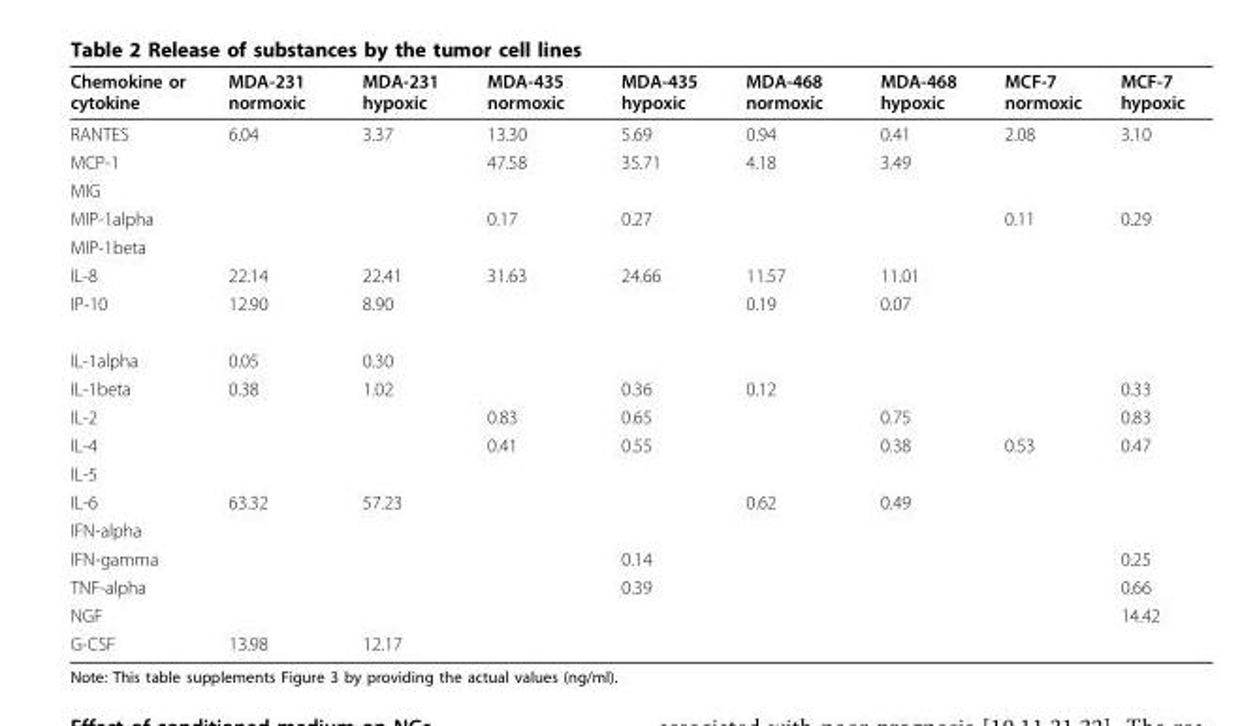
<table><thead><tr><td>Chemokine or cytokine</td><td>MDA-231 normoxic</td><td>MDA-231 hypoxic</td><td>MDA-435 normoxic</td><td>MDA-435 hypoxic</td><td>MDA-468 normoxic</td><td>MDA-468 hypoxic</td><td>MCF-7 normoxic</td><td>MCF-7 hypoxic</td></tr></thead><tbody><tr><td>RANTES</td><td>6.04</td><td>3.37</td><td>13.30</td><td>5.69</td><td>0.94</td><td>0.41</td><td>2.08</td><td>3.10</td></tr><tr><td>MCP-1</td><td></td><td></td><td>47.58</td><td>35.71</td><td>4.18</td><td>3.49</td><td></td><td></td></tr><tr><td colspan="9">MIG</td></tr><tr><td>MIP-1alpha</td><td></td><td></td><td>0.17</td><td>0.27</td><td></td><td></td><td>0.11</td><td>0.29</td></tr><tr><td colspan="9">MIP-1beta</td></tr><tr><td>IL-8</td><td>22.14</td><td>22.41</td><td>31.63</td><td>24.66</td><td>11.57</td><td>11.01</td><td></td><td></td></tr><tr><td>IP-10</td><td>12.90</td><td>8.90</td><td></td><td></td><td>0.19</td><td>0.07</td><td></td><td></td></tr><tr><td>IL-1alpha</td><td>0.05</td><td>0.30</td><td></td><td></td><td></td><td></td><td></td><td></td></tr><tr><td>IL-1beta</td><td>0.38</td><td>1.02</td><td></td><td>0.36</td><td>0.12</td><td></td><td></td><td>0.33</td></tr><tr><td>IL-2</td><td></td><td></td><td>0.83</td><td>0.65</td><td></td><td>0.75</td><td></td><td>0.83</td></tr><tr><td>IL-4</td><td></td><td></td><td>0.41</td><td>0.55</td><td></td><td>0.38</td><td>0.53</td><td>0.47</td></tr><tr><td colspan="9">IL-5</td></tr><tr><td>IL-6</td><td>63.32</td><td>57.23</td><td></td><td></td><td>0.62</td><td>0.49</td><td></td><td></td></tr><tr><td colspan="9">IFN-alpha</td></tr><tr><td>IFN-gamma</td><td></td><td></td><td></td><td>0.14</td><td></td><td></td><td></td><td>0.25</td></tr><tr><td>TNF-alpha</td><td></td><td></td><td></td><td>0.39</td><td></td><td></td><td></td><td>0.66</td></tr><tr><td>NGF</td><td></td><td></td><td></td><td></td><td></td><td></td><td></td><td>14.42</td></tr><tr><td>G-CSF</td><td>13.98</td><td>12.17</td><td></td><td></td><td></td><td></td><td></td><td></td></tr></tbody></table>